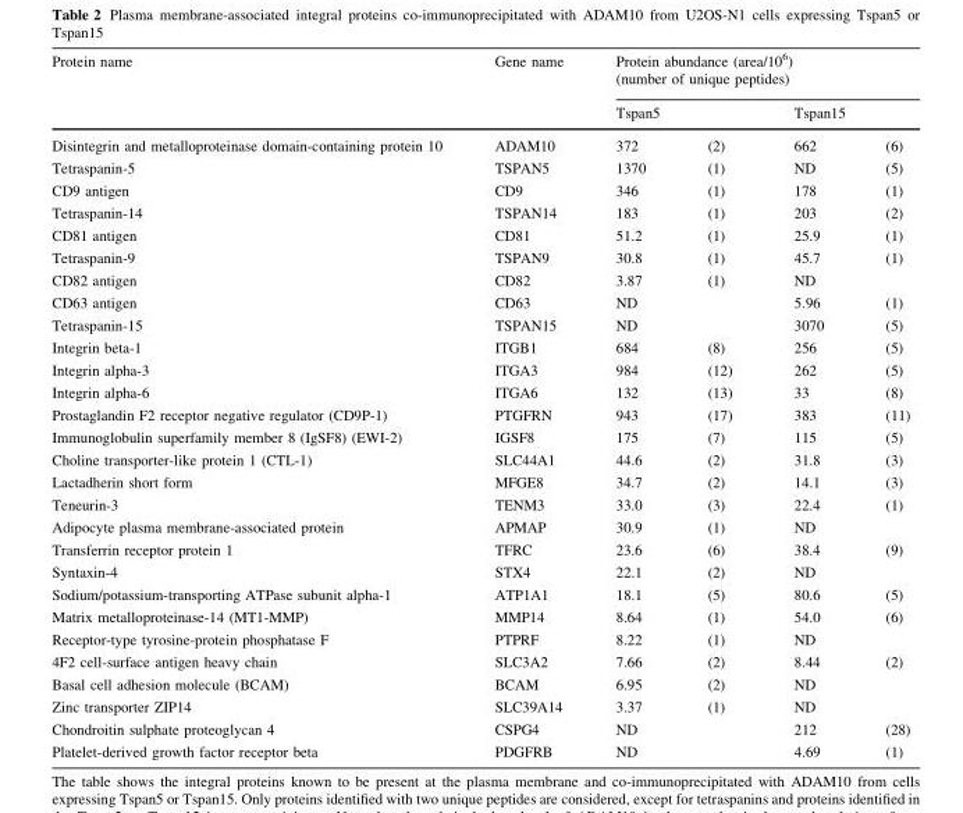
<table><thead><tr><td rowspan="3">Protein name Disintegrin and metalloproteinase domain-containing protein 10</td><td rowspan="3">Gene name ADAM10</td><td colspan="4">Protein abundance (area/10<sup>6</sup>) (number of unique peptides)</td></tr><tr><td colspan="2">Tspan5</td><td colspan="2">Tspan15</td></tr><tr><td>372</td><td>(2)</td><td>662</td><td>(6)</td></tr></thead><tbody><tr><td>Tetraspanin-5</td><td>TSPAN5</td><td>1370</td><td>(1)</td><td>ND</td><td>(5)</td></tr><tr><td>CD9 antigen</td><td>CD9</td><td>346</td><td>(1)</td><td>178</td><td>(1)</td></tr><tr><td>Tetraspanin-14</td><td>TSPAN14</td><td>183</td><td>(1)</td><td>203</td><td>(2)</td></tr><tr><td>CD81 antigen</td><td>CD81</td><td>51.2</td><td>(1)</td><td>25.9</td><td>(1)</td></tr><tr><td>Tetraspanin-9</td><td>TSPAN9</td><td>30.8</td><td>(1)</td><td>45.7</td><td>(1)</td></tr><tr><td>CD82 antigen</td><td>CD82</td><td>3.87</td><td>(1)</td><td>ND</td><td></td></tr><tr><td>CD63 antigen</td><td>CD63</td><td>ND</td><td></td><td>5.96</td><td>(1)</td></tr><tr><td>Tetraspanin-15</td><td>TSPAN15</td><td>ND</td><td></td><td>3070</td><td>(5)</td></tr><tr><td>Integrin beta-1</td><td>ITGB1</td><td>684</td><td>(8)</td><td>256</td><td>(5)</td></tr><tr><td>Integrin alpha-3</td><td>ITGA3</td><td>984</td><td>(12)</td><td>262</td><td>(5)</td></tr><tr><td>Integrin alpha-6</td><td>ITGA6</td><td>132</td><td>(13)</td><td>33</td><td>(8)</td></tr><tr><td>Prostaglandin F2 receptor negative regulator (CD9P-1)</td><td>PTGFRN</td><td>943</td><td>(17)</td><td>383</td><td>(11)</td></tr><tr><td>Immunoglobulin superfamily member 8 (IgSF8) (EWI-2)</td><td>IGSF8</td><td>175</td><td>(7)</td><td>115</td><td>(5)</td></tr><tr><td>Choline transporter-like protein 1 (CTL-1)</td><td>SLC44A1</td><td>44.6</td><td>(2)</td><td>31.8</td><td>(3)</td></tr><tr><td>Lactadherin short form</td><td>MFGE8</td><td>34.7</td><td>(2)</td><td>14.1</td><td>(3)</td></tr><tr><td>Teneurin-3</td><td>TENM3</td><td>33.0</td><td>(3)</td><td>22.4</td><td>(1)</td></tr><tr><td>Adipocyte plasma membrane-associated protein</td><td>APMAP</td><td>30.9</td><td>(1)</td><td>ND</td><td></td></tr><tr><td>Transferrin receptor protein 1</td><td>TFRC</td><td>23.6</td><td>(6)</td><td>38.4</td><td>(9)</td></tr><tr><td>Syntaxin-4</td><td>STX4</td><td>22.1</td><td>(2)</td><td>ND</td><td></td></tr><tr><td>Sodium/potassium-transporting ATPase subunit alpha-1</td><td>ATP1A1</td><td>18.1</td><td>(5)</td><td>80.6</td><td>(5)</td></tr><tr><td>Matrix metalloproteinase-14 (MT1-MMP)</td><td>MMP14</td><td>8.64</td><td>(1)</td><td>54.0</td><td>(6)</td></tr><tr><td>Receptor-type tyrosine-protein phosphatase F</td><td>PTPRF</td><td>8.22</td><td>(1)</td><td>ND</td><td></td></tr><tr><td>4F2 cell-surface antigen heavy chain</td><td>SLC3A2</td><td>7.66</td><td>(2)</td><td>8.44</td><td>(2)</td></tr><tr><td>Basal cell adhesion molecule (BCAM)</td><td>BCAM</td><td>6.95</td><td>(2)</td><td>ND</td><td></td></tr><tr><td>Zinc transporter ZIP14</td><td>SLC39A14</td><td>3.37</td><td>(1)</td><td>ND</td><td></td></tr><tr><td>Chondroitin sulphate proteoglycan 4</td><td>CSPG4</td><td>ND</td><td></td><td>212</td><td>(28)</td></tr><tr><td>Platelet-derived growth factor receptor beta</td><td>PDGFRB</td><td>ND</td><td></td><td>4.69</td><td>(1)</td></tr></tbody></table>